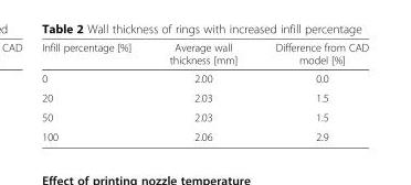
<table><thead><tr><td>Infill percentage [%]</td><td>Average wall thickness [mm]</td><td>Difference from CAD model [%]</td></tr></thead><tbody><tr><td>0</td><td>2.00</td><td>0.0</td></tr><tr><td>20</td><td>2.03</td><td>1.5</td></tr><tr><td>50</td><td>2.03</td><td>1.5</td></tr><tr><td>100</td><td>2.06</td><td>2.9</td></tr></tbody></table>